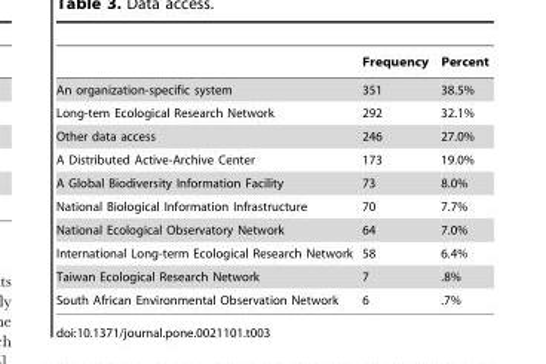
<table><thead><tr><td></td><td>Frequency</td><td>Percent</td></tr></thead><tbody><tr><td>An organization-specific system</td><td>351</td><td>38.5%</td></tr><tr><td>Long-tem Ecological Research Network</td><td>292</td><td>32.1%</td></tr><tr><td>Other data access</td><td>246</td><td>27.0%</td></tr><tr><td>A Distributed Active-Archive Center</td><td>173</td><td>19.0%</td></tr><tr><td>A Global Biodiversity Information Facility</td><td>73</td><td>8.0%</td></tr><tr><td>National Biological Information Infrastructure</td><td>70</td><td>7.7%</td></tr><tr><td>National Ecological Observatory Network</td><td>64</td><td>7.0%</td></tr><tr><td>International Long-term Ecological Research Network</td><td>58</td><td>6.4%</td></tr><tr><td>Taiwan Ecological Research Network</td><td>7</td><td>.8%</td></tr><tr><td>South African Environmental Observation Network</td><td>6</td><td>.7%</td></tr></tbody></table>